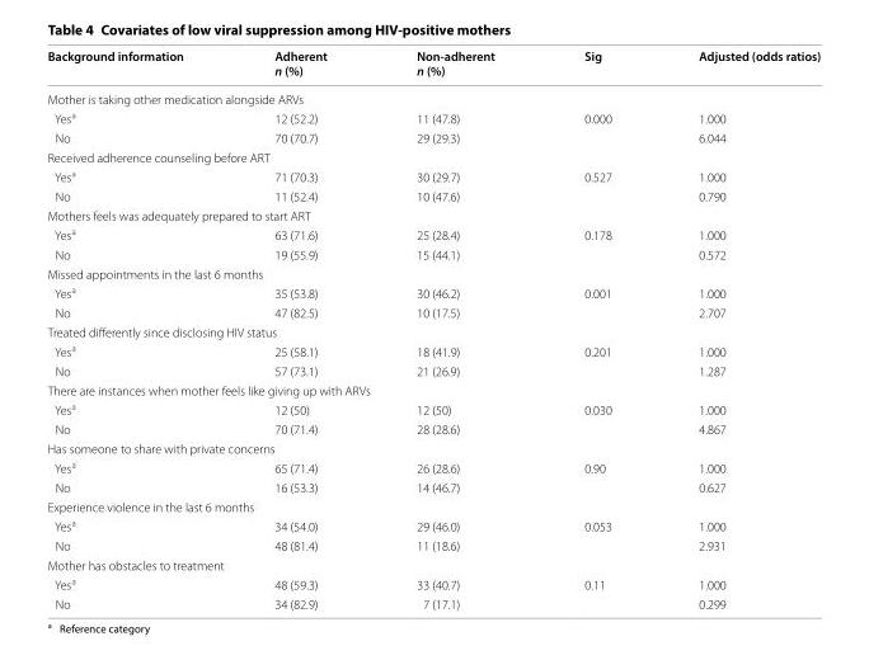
<table><thead><tr><td>Background information</td><td>Adherent n (%)</td><td>Non‑adherent n (%)</td><td>Sig</td><td>Adjusted (odds ratios)</td></tr></thead><tbody><tr><td colspan="5">Mother is taking other medication alongside ARVs</td></tr><tr><td>Yes<sup>a</sup></td><td>12 (52.2)</td><td>11 (47.8)</td><td>0.000</td><td>1.000</td></tr><tr><td>No</td><td>70 (70.7)</td><td>29 (29.3)</td><td></td><td>6.044</td></tr><tr><td colspan="5">Received adherence counseling before ART</td></tr><tr><td>Yes<sup>a</sup></td><td>71 (70.3)</td><td>30 (29.7)</td><td>0.527</td><td>1.000</td></tr><tr><td>No</td><td>11 (52.4)</td><td>10 (47.6)</td><td></td><td>0.790</td></tr><tr><td colspan="5">Mothers feels was adequately prepared to start ART</td></tr><tr><td>Yes<sup>a</sup></td><td>63 (71.6)</td><td>25 (28.4)</td><td>0.178</td><td>1.000</td></tr><tr><td>No</td><td>19 (55.9)</td><td>15 (44.1)</td><td></td><td>0.572</td></tr><tr><td colspan="5">Missed appointments in the last 6 months</td></tr><tr><td>Yes<sup>a</sup></td><td>35 (53.8)</td><td>30 (46.2)</td><td>0.001</td><td>1.000</td></tr><tr><td>No</td><td>47 (82.5)</td><td>10 (17.5)</td><td></td><td>2.707</td></tr><tr><td colspan="5">Treated differently since disclosing HIV status</td></tr><tr><td>Yes<sup>a</sup></td><td>25 (58.1)</td><td>18 (41.9)</td><td>0.201</td><td>1.000</td></tr><tr><td>No</td><td>57 (73.1)</td><td>21 (26.9)</td><td></td><td>1.287</td></tr><tr><td colspan="5">There are instances when mother feels like giving up with ARVs</td></tr><tr><td>Yes<sup>a</sup></td><td>12 (50)</td><td>12 (50)</td><td>0.030</td><td>1.000</td></tr><tr><td>No</td><td>70 (71.4)</td><td>28 (28.6)</td><td></td><td>4.867</td></tr><tr><td colspan="5">Has someone to share with private concerns</td></tr><tr><td>Yes<sup>a</sup></td><td>65 (71.4)</td><td>26 (28.6)</td><td>0.90</td><td>1.000</td></tr><tr><td>No</td><td>16 (53.3)</td><td>14 (46.7)</td><td></td><td>0.627</td></tr><tr><td colspan="5">Experience violence in the last 6 months</td></tr><tr><td>Yes<sup>a</sup></td><td>34 (54.0)</td><td>29 (46.0)</td><td>0.053</td><td>1.000</td></tr><tr><td>No</td><td>48 (81.4)</td><td>11 (18.6)</td><td></td><td>2.931</td></tr><tr><td colspan="5">Mother has obstacles to treatment</td></tr><tr><td>Yes<sup>a</sup></td><td>48 (59.3)</td><td>33 (40.7)</td><td>0.11</td><td>1.000</td></tr><tr><td>No</td><td>34 (82.9)</td><td>7 (17.1)</td><td></td><td>0.299</td></tr></tbody></table>